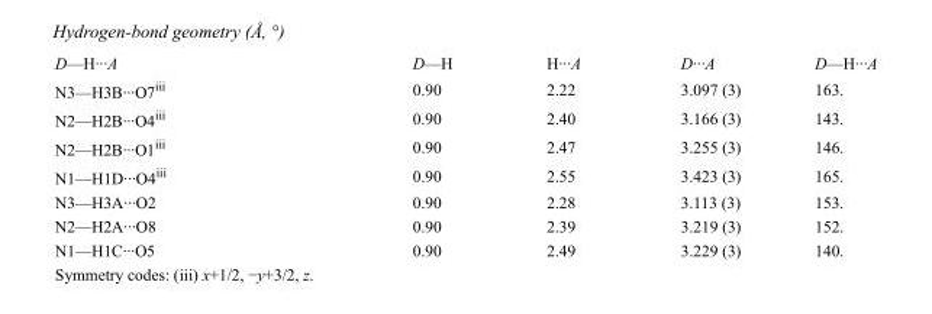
<table><tbody><tr><td>D—H···A</td><td>D—H</td><td>H···A</td><td>D···A</td><td>D—H···A</td></tr><tr><td>N3—H3B···O7<sup>iii</sup></td><td>0.90</td><td>2.22</td><td>3.097 (3)</td><td>163.</td></tr><tr><td>N2—H2B···O4<sup>iii</sup></td><td>0.90</td><td>2.40</td><td>3.166 (3)</td><td>143.</td></tr><tr><td>N2—H2B···O1<sup>iii</sup></td><td>0.90</td><td>2.47</td><td>3.255 (3)</td><td>146.</td></tr><tr><td>N1—H1D···O4<sup>iii</sup></td><td>0.90</td><td>2.55</td><td>3.423 (3)</td><td>165.</td></tr><tr><td>N3—H3A···O2</td><td>0.90</td><td>2.28</td><td>3.113 (3)</td><td>153.</td></tr><tr><td>N2—H2A···O8</td><td>0.90</td><td>2.39</td><td>3.219 (3)</td><td>152.</td></tr><tr><td>N1—H1C···O5</td><td>0.90</td><td>2.49</td><td>3.229 (3)</td><td>140.</td></tr></tbody></table>